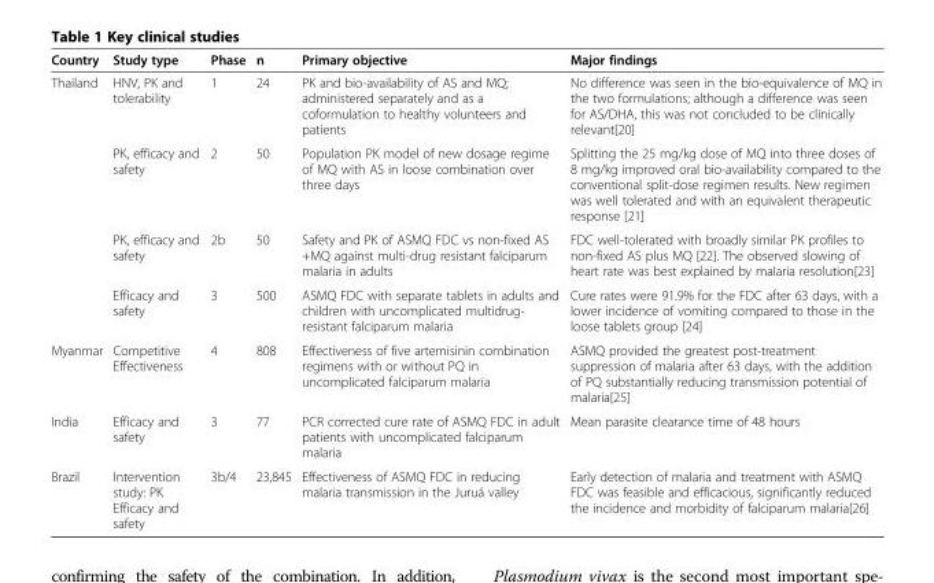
<table><thead><tr><td>Country</td><td>Study type</td><td>Phase</td><td>n</td><td>Primary objective</td><td>Major findings</td></tr></thead><tbody><tr><td rowspan="4">Thailand</td><td>HNV, PK and tolerability</td><td>1</td><td>24</td><td>PK and bio-availability of AS and MQ; administered separately and as a coformulation to healthy volunteers and patients</td><td>No difference was seen in the bio-equivalence of MQ in the two formulations; although a difference was seen for AS/DHA, this was not concluded to be clinically relevant[20]</td></tr><tr><td>PK, efficacy and safety</td><td>2</td><td>50</td><td>Population PK model of new dosage regime of MQ with AS in loose combination over three days</td><td>Splitting the 25 mg/kg dose of MQ into three doses of 8 mg/kg improved oral bio-availability compared to the conventional split-dose regimen results. New regimen was well tolerated and with an equivalent therapeutic response [21]</td></tr><tr><td>PK, efficacy and safety</td><td>2b</td><td>50</td><td>Safety and PK of ASMQ FDC vs non-fixed AS +MQ against multi-drug resistant falciparum malaria in adults</td><td>FDC well-tolerated with broadly similar PK profiles to non-fixed AS plus MQ [22]. The observed slowing of heart rate was best explained by malaria resolution[23]</td></tr><tr><td>Efficacy and safety</td><td>3</td><td>500</td><td>ASMQ FDC with separate tablets in adults and children with uncomplicated multidrug- resistant falciparum malaria</td><td>Cure rates were 91.9% for the FDC after 63 days, with a lower incidence of vomiting compared to those in the loose tablets group [24]</td></tr><tr><td>Myanmar</td><td>Competitive Effectiveness</td><td>4</td><td>808</td><td>Effectiveness of five artemisinin combination regimens with or without PQ in uncomplicated falciparum malaria</td><td>ASMQ provided the greatest post-treatment suppression of malaria after 63 days, with the addition of PQ substantially reducing transmission potential of malaria[25]</td></tr><tr><td>India</td><td>Efficacy and safety</td><td>3</td><td>77</td><td>PCR corrected cure rate of ASMQ FDC in adult patients with uncomplicated falciparum malaria</td><td>Mean parasite clearance time of 48 hours</td></tr><tr><td>Brazil</td><td>Intervention study: PK Efficacy and safety</td><td>3b/4</td><td>23,845</td><td>Effectiveness of ASMQ FDC in reducing malaria transmission in the Juruá valley</td><td>Early detection of malaria and treatment with ASMQ FDC was feasible and efficacious, significantly reduced the incidence and morbidity of falciparum malaria[26]</td></tr></tbody></table>